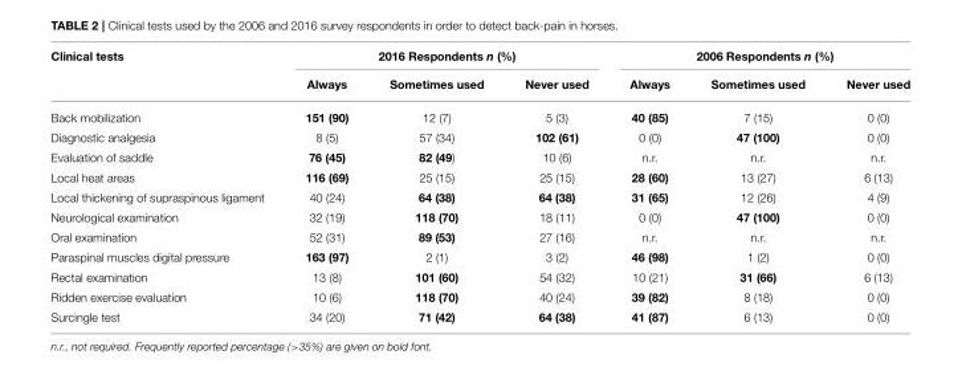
<table><thead><tr><td rowspan="2">Clinical tests</td><td colspan="3">2016 Respondents n (%)</td><td colspan="3">2006 Respondents n (%)</td></tr><tr><td>Always</td><td>Sometimes used</td><td>Never used</td><td>Always</td><td>Sometimes used</td><td>Never used</td></tr></thead><tbody><tr><td>Back mobilization</td><td>151 (90)</td><td>12 (7)</td><td>5 (3)</td><td>40 (85)</td><td>7 (15)</td><td>0 (0)</td></tr><tr><td>Diagnostic analgesia</td><td>8 (5)</td><td>57 (34)</td><td>102 (61)</td><td>0 (0)</td><td>47 (100)</td><td>0 (0)</td></tr><tr><td>Evaluation of saddle</td><td>76 (45)</td><td>82 (49)</td><td>10 (6)</td><td>n.r.</td><td>n.r.</td><td>n.r.</td></tr><tr><td>Local heat areas</td><td>116 (69)</td><td>25 (15)</td><td>25 (15)</td><td>28 (60)</td><td>13 (27)</td><td>6 (13)</td></tr><tr><td>Local thickening of supraspinous ligament</td><td>40 (24)</td><td>64 (38)</td><td>64 (38)</td><td>31 (65)</td><td>12 (26)</td><td>4 (9)</td></tr><tr><td>Neurological examination</td><td>32 (19)</td><td>118 (70)</td><td>18 (11)</td><td>0 (0)</td><td>47 (100)</td><td>0 (0)</td></tr><tr><td>Oral examination</td><td>52 (31)</td><td>89 (53)</td><td>27 (16)</td><td>n.r.</td><td>n.r.</td><td>n.r.</td></tr><tr><td>Paraspinal muscles digital pressure</td><td>163 (97)</td><td>2 (1)</td><td>3 (2)</td><td>46 (98)</td><td>1 (2)</td><td>0 (0)</td></tr><tr><td>Rectal examination</td><td>13 (8)</td><td>101 (60)</td><td>54 (32)</td><td>10 (21)</td><td>31 (66)</td><td>6 (13)</td></tr><tr><td>Ridden exercise evaluation</td><td>10 (6)</td><td>118 (70)</td><td>40 (24)</td><td>39 (82)</td><td>8 (18)</td><td>0 (0)</td></tr><tr><td>Surcingle test</td><td>34 (20)</td><td>71 (42)</td><td>64 (38)</td><td>41 (87)</td><td>6 (13)</td><td>0 (0)</td></tr></tbody></table>